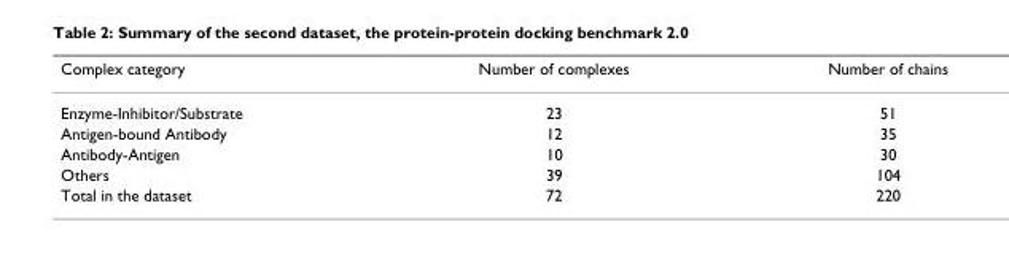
<table><thead><tr><td>Complex category</td><td>Number of complexes</td><td>Number of chains</td></tr></thead><tbody><tr><td>Enzyme-Inhibitor/Substrate</td><td>23</td><td>51</td></tr><tr><td>Antigen-bound Antibody</td><td>12</td><td>35</td></tr><tr><td>Antibody-Antigen</td><td>10</td><td>30</td></tr><tr><td>Others</td><td>39</td><td>104</td></tr><tr><td>Total in the dataset</td><td>72</td><td>220</td></tr></tbody></table>